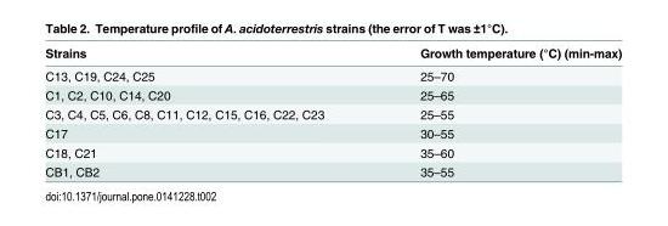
<table><thead><tr><td>Strains</td><td>Growth temperature (°C) (min-max)</td></tr></thead><tbody><tr><td>C13, C19, C24, C25</td><td>25–70</td></tr><tr><td>C1, C2, C10, C14, C20</td><td>25–65</td></tr><tr><td>C3, C4, C5, C6, C8, C11, C12, C15, C16, C22, C23</td><td>25–55</td></tr><tr><td>C17</td><td>30–55</td></tr><tr><td>C18, C21</td><td>35–60</td></tr><tr><td>CB1, CB2</td><td>35–55</td></tr></tbody></table>